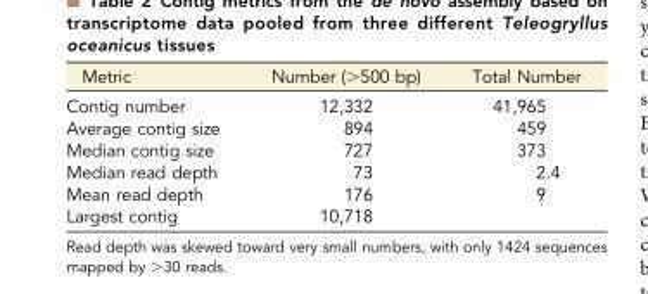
<table><thead><tr><td>Metric</td><td>Number (&gt;500 bp)</td><td>Total Number</td></tr></thead><tbody><tr><td>Contig number</td><td>12,332</td><td>41,965</td></tr><tr><td>Average contig size</td><td>894</td><td>459</td></tr><tr><td>Median contig size</td><td>727</td><td>373</td></tr><tr><td>Median read depth</td><td>73</td><td>2.4</td></tr><tr><td>Mean read depth</td><td>176</td><td>9</td></tr><tr><td>Largest contig</td><td>10,718</td><td></td></tr></tbody></table>